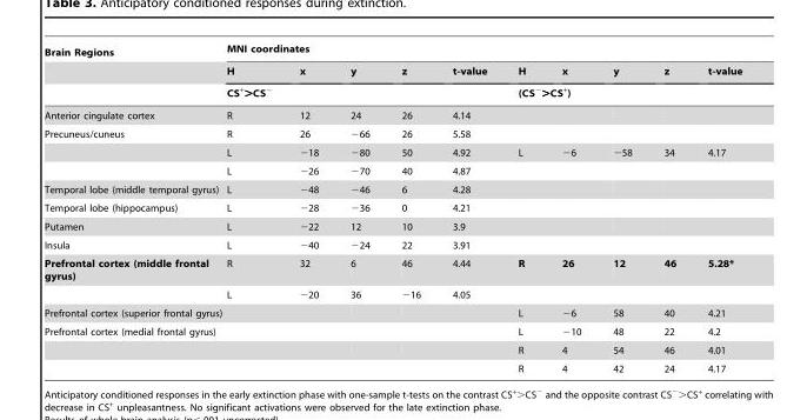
<table><thead><tr><td rowspan="3">Brain Regions</td><td colspan="10">MNI coordinates</td></tr><tr><td>H</td><td>x</td><td>y</td><td>z</td><td>t-value</td><td>H</td><td>x</td><td>y</td><td>z</td><td>t-value</td></tr><tr><td colspan="5">CS<sup>+</sup>&gt;CS<sup>−</sup></td><td colspan="5">(CS<sup>−</sup>&gt;CS<sup>+</sup>)</td></tr></thead><tbody><tr><td>Anterior cingulate cortex</td><td>R</td><td>12</td><td>24</td><td>26</td><td>4.14</td><td></td><td></td><td></td><td></td><td></td></tr><tr><td rowspan="3">Precuneus/cuneus</td><td>R</td><td>26</td><td>−66</td><td>26</td><td>5.58</td><td></td><td></td><td></td><td></td><td></td></tr><tr><td>L</td><td>−18</td><td>−80</td><td>50</td><td>4.92</td><td>L</td><td>−6</td><td>−58</td><td>34</td><td>4.17</td></tr><tr><td>L</td><td>−26</td><td>−70</td><td>40</td><td>4.87</td><td></td><td></td><td></td><td></td><td></td></tr><tr><td>Temporal lobe (middle temporal gyrus)</td><td>L</td><td>−48</td><td>−46</td><td>6</td><td>4.28</td><td></td><td></td><td></td><td></td><td></td></tr><tr><td>Temporal lobe (hippocampus)</td><td>L</td><td>−28</td><td>−36</td><td>0</td><td>4.21</td><td></td><td></td><td></td><td></td><td></td></tr><tr><td>Putamen</td><td>L</td><td>−22</td><td>12</td><td>10</td><td>3.9</td><td></td><td></td><td></td><td></td><td></td></tr><tr><td>Insula</td><td>L</td><td>−40</td><td>−24</td><td>22</td><td>3.91</td><td></td><td></td><td></td><td></td><td></td></tr><tr><td rowspan="2">Prefrontal cortex (middle frontal gyrus)</td><td>R</td><td>32</td><td>6</td><td>46</td><td>4.44</td><td>R</td><td>26</td><td>12</td><td>46</td><td>5.28*</td></tr><tr><td>L</td><td>−20</td><td>36</td><td>−16</td><td>4.05</td><td></td><td></td><td></td><td></td><td></td></tr><tr><td>Prefrontal cortex (superior frontal gyrus)</td><td></td><td></td><td></td><td></td><td></td><td>L</td><td>−6</td><td>58</td><td>40</td><td>4.21</td></tr><tr><td rowspan="3">Prefrontal cortex (medial frontal gyrus)</td><td></td><td></td><td></td><td></td><td></td><td>L</td><td>−10</td><td>48</td><td>22</td><td>4.2</td></tr><tr><td></td><td></td><td></td><td></td><td></td><td>R</td><td>4</td><td>54</td><td>46</td><td>4.01</td></tr><tr><td></td><td></td><td></td><td></td><td></td><td>R</td><td>4</td><td>42</td><td>24</td><td>4.17</td></tr></tbody></table>